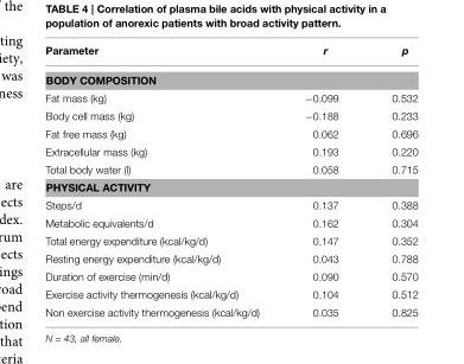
<table><thead><tr><td>Parameter</td><td>r</td><td>p</td></tr></thead><tbody><tr><td colspan="3">BODY COMPOSITION</td></tr><tr><td>Fat mass (kg)</td><td>−0.099</td><td>0.532</td></tr><tr><td>Body cell mass (kg)</td><td>−0.188</td><td>0.233</td></tr><tr><td>Fat free mass (kg)</td><td>0.062</td><td>0.696</td></tr><tr><td>Extracellular mass (kg)</td><td>0.193</td><td>0.220</td></tr><tr><td>Total body water (l)</td><td>0.058</td><td>0.715</td></tr><tr><td colspan="3">PHYSICAL ACTIVITY</td></tr><tr><td>Steps/d</td><td>0.137</td><td>0.388</td></tr><tr><td>Metabolic equivalents/d</td><td>0.162</td><td>0.304</td></tr><tr><td>Total energy expenditure (kcal/kg/d)</td><td>0.147</td><td>0.352</td></tr><tr><td>Resting energy expenditure (kcal/kg/d)</td><td>0.043</td><td>0.788</td></tr><tr><td>Duration of exercise (min/d)</td><td>0.090</td><td>0.570</td></tr><tr><td>Exercise activity thermogenesis (kcal/kg/d)</td><td>0.104</td><td>0.512</td></tr><tr><td>Non exercise activity thermogenesis (kcal/kg/d)</td><td>0.035</td><td>0.825</td></tr></tbody></table>